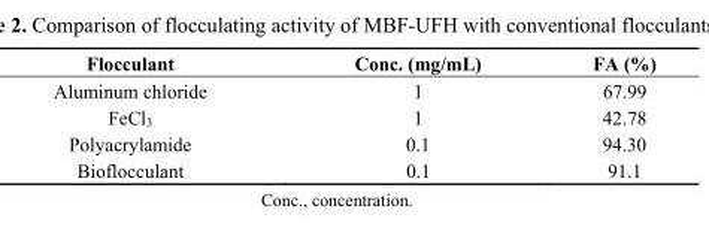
<table><thead><tr><td>Flocculant</td><td>Conc. (mg/mL)</td><td>FA (%)</td></tr></thead><tbody><tr><td>Aluminum chloride</td><td>1</td><td>67.99</td></tr><tr><td>FeCl<sub>3</sub></td><td>1</td><td>42.78</td></tr><tr><td>Polyacrylamide</td><td>0.1</td><td>94.30</td></tr><tr><td>Bioflocculant</td><td>0.1</td><td>91.1</td></tr></tbody></table>